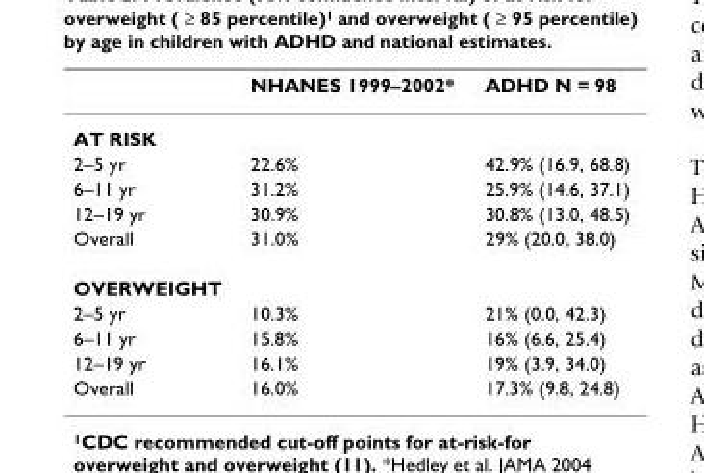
<table><thead><tr><td></td><td>NHANES 1999–2002*</td><td>ADHD N = 98</td></tr></thead><tbody><tr><td colspan="3">AT RISK</td></tr><tr><td>2–5 yr</td><td>22.6%</td><td>42.9% (16.9, 68.8)</td></tr><tr><td>6–11 yr</td><td>31.2%</td><td>25.9% (14.6, 37.1)</td></tr><tr><td>12–19 yr</td><td>30.9%</td><td>30.8% (13.0, 48.5)</td></tr><tr><td>Overall</td><td>31.0%</td><td>29% (20.0, 38.0)</td></tr><tr><td colspan="3">OVERWEIGHT</td></tr><tr><td>2–5 yr</td><td>10.3%</td><td>21% (0.0, 42.3)</td></tr><tr><td>6–11 yr</td><td>15.8%</td><td>16% (6.6, 25.4)</td></tr><tr><td>12–19 yr</td><td>16.1%</td><td>19% (3.9, 34.0)</td></tr><tr><td>Overall</td><td>16.0%</td><td>17.3% (9.8, 24.8)</td></tr></tbody></table>